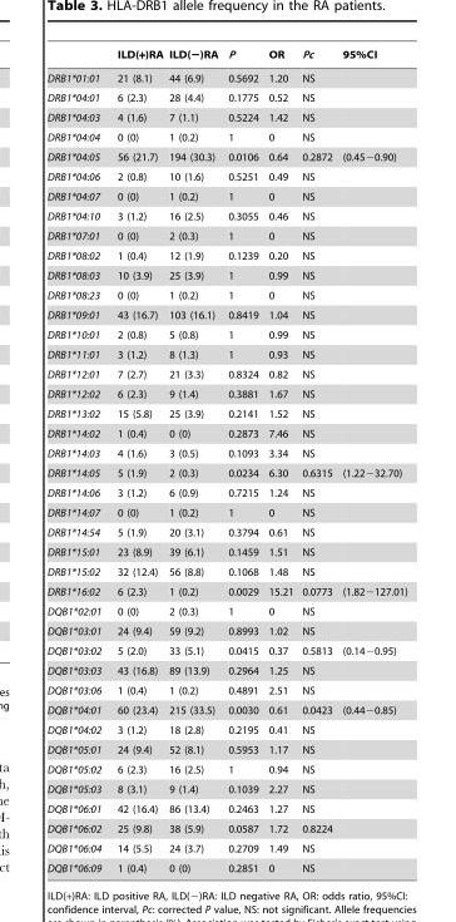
<table><thead><tr><td></td><td>ILD(+)RA</td><td>ILD(−)RA</td><td>P</td><td>OR</td><td>Pc</td><td>95%CI</td></tr></thead><tbody><tr><td>DRB1*01:01</td><td>21 (8.1)</td><td>44 (6.9)</td><td>0.5692</td><td>1.20</td><td>NS</td><td></td></tr><tr><td>DRB1*04:01</td><td>6 (2.3)</td><td>28 (4.4)</td><td>0.1775</td><td>0.52</td><td>NS</td><td></td></tr><tr><td>DRB1*04:03</td><td>4 (1.6)</td><td>7 (1.1)</td><td>0.5224</td><td>1.42</td><td>NS</td><td></td></tr><tr><td>DRB1*04:04</td><td>0 (0)</td><td>1 (0.2)</td><td>1</td><td>0</td><td>NS</td><td></td></tr><tr><td>DRB1*04:05</td><td>56 (21.7)</td><td>194 (30.3)</td><td>0.0106</td><td>0.64</td><td>0.2872</td><td>(0.45−0.90)</td></tr><tr><td>DRB1*04:06</td><td>2 (0.8)</td><td>10 (1.6)</td><td>0.5251</td><td>0.49</td><td>NS</td><td></td></tr><tr><td>DRB1*04:07</td><td>0 (0)</td><td>1 (0.2)</td><td>1</td><td>0</td><td>NS</td><td></td></tr><tr><td>DRB1*04:10</td><td>3 (1.2)</td><td>16 (2.5)</td><td>0.3055</td><td>0.46</td><td>NS</td><td></td></tr><tr><td>DRB1*07:01</td><td>0 (0)</td><td>2 (0.3)</td><td>1</td><td>0</td><td>NS</td><td></td></tr><tr><td>DRB1*08:02</td><td>1 (0.4)</td><td>12 (1.9)</td><td>0.1239</td><td>0.20</td><td>NS</td><td></td></tr><tr><td>DRB1*08:03</td><td>10 (3.9)</td><td>25 (3.9)</td><td>1</td><td>0.99</td><td>NS</td><td></td></tr><tr><td>DRB1*08:23</td><td>0 (0)</td><td>1 (0.2)</td><td>1</td><td>0</td><td>NS</td><td></td></tr><tr><td>DRB1*09:01</td><td>43 (16.7)</td><td>103 (16.1)</td><td>0.8419</td><td>1.04</td><td>NS</td><td></td></tr><tr><td>DRB1*10:01</td><td>2 (0.8)</td><td>5 (0.8)</td><td>1</td><td>0.99</td><td>NS</td><td></td></tr><tr><td>DRB1*11:01</td><td>3 (1.2)</td><td>8 (1.3)</td><td>1</td><td>0.93</td><td>NS</td><td></td></tr><tr><td>DRB1*12:01</td><td>7 (2.7)</td><td>21 (3.3)</td><td>0.8324</td><td>0.82</td><td>NS</td><td></td></tr><tr><td>DRB1*12:02</td><td>6 (2.3)</td><td>9 (1.4)</td><td>0.3881</td><td>1.67</td><td>NS</td><td></td></tr><tr><td>DRB1*13:02</td><td>15 (5.8)</td><td>25 (3.9)</td><td>0.2141</td><td>1.52</td><td>NS</td><td></td></tr><tr><td>DRB1*14:02</td><td>1 (0.4)</td><td>0 (0)</td><td>0.2873</td><td>7.46</td><td>NS</td><td></td></tr><tr><td>DRB1*14:03</td><td>4 (1.6)</td><td>3 (0.5)</td><td>0.1093</td><td>3.34</td><td>NS</td><td></td></tr><tr><td>DRB1*14:05</td><td>5 (1.9)</td><td>2 (0.3)</td><td>0.0234</td><td>6.30</td><td>0.6315</td><td>(1.22−32.70)</td></tr><tr><td>DRB1*14:06</td><td>3 (1.2)</td><td>6 (0.9)</td><td>0.7215</td><td>1.24</td><td>NS</td><td></td></tr><tr><td>DRB1*14:07</td><td>0 (0)</td><td>1 (0.2)</td><td>1</td><td>0</td><td>NS</td><td></td></tr><tr><td>DRB1*14:54</td><td>5 (1.9)</td><td>20 (3.1)</td><td>0.3794</td><td>0.61</td><td>NS</td><td></td></tr><tr><td>DRB1*15:01</td><td>23 (8.9)</td><td>39 (6.1)</td><td>0.1459</td><td>1.51</td><td>NS</td><td></td></tr><tr><td>DRB1*15:02</td><td>32 (12.4)</td><td>56 (8.8)</td><td>0.1068</td><td>1.48</td><td>NS</td><td></td></tr><tr><td>DRB1*16:02</td><td>6 (2.3)</td><td>1 (0.2)</td><td>0.0029</td><td>15.21</td><td>0.0773</td><td>(1.82−127.01)</td></tr><tr><td>DQB1*02:01</td><td>0 (0)</td><td>2 (0.3)</td><td>1</td><td>0</td><td>NS</td><td></td></tr><tr><td>DQB1*03:01</td><td>24 (9.4)</td><td>59 (9.2)</td><td>0.8993</td><td>1.02</td><td>NS</td><td></td></tr><tr><td>DQB1*03:02</td><td>5 (2.0)</td><td>33 (5.1)</td><td>0.0415</td><td>0.37</td><td>0.5813</td><td>(0.14−0.95)</td></tr><tr><td>DQB1*03:03</td><td>43 (16.8)</td><td>89 (13.9)</td><td>0.2964</td><td>1.25</td><td>NS</td><td></td></tr><tr><td>DQB1*03:06</td><td>1 (0.4)</td><td>1 (0.2)</td><td>0.4891</td><td>2.51</td><td>NS</td><td></td></tr><tr><td>DQB1*04:01</td><td>60 (23.4)</td><td>215 (33.5)</td><td>0.0030</td><td>0.61</td><td>0.0423</td><td>(0.44−0.85)</td></tr><tr><td>DQB1*04:02</td><td>3 (1.2)</td><td>18 (2.8)</td><td>0.2195</td><td>0.41</td><td>NS</td><td></td></tr><tr><td>DQB1*05:01</td><td>24 (9.4)</td><td>52 (8.1)</td><td>0.5953</td><td>1.17</td><td>NS</td><td></td></tr><tr><td>DQB1*05:02</td><td>6 (2.3)</td><td>16 (2.5)</td><td>1</td><td>0.94</td><td>NS</td><td></td></tr><tr><td>DQB1*05:03</td><td>8 (3.1)</td><td>9 (1.4)</td><td>0.1039</td><td>2.27</td><td>NS</td><td></td></tr><tr><td>DQB1*06:01</td><td>42 (16.4)</td><td>86 (13.4)</td><td>0.2463</td><td>1.27</td><td>NS</td><td></td></tr><tr><td>DQB1*06:02</td><td>25 (9.8)</td><td>38 (5.9)</td><td>0.0587</td><td>1.72</td><td>0.8224</td><td></td></tr><tr><td>DQB1*06:04</td><td>14 (5.5)</td><td>24 (3.7)</td><td>0.2709</td><td>1.49</td><td>NS</td><td></td></tr><tr><td>DQB1*06:09</td><td>1 (0.4)</td><td>0 (0)</td><td>0.2851</td><td>0</td><td>NS</td><td></td></tr></tbody></table>